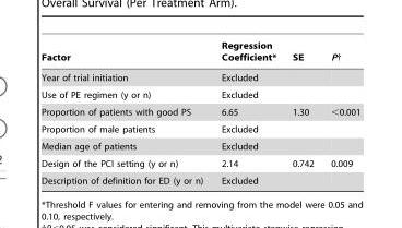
<table><thead><tr><td>Factor</td><td>Regression Coefficient*</td><td>SE</td><td>P†</td></tr></thead><tbody><tr><td>Year of trial initiation</td><td>Excluded</td><td></td><td></td></tr><tr><td>Use of PE regimen (y or n)</td><td>Excluded</td><td></td><td></td></tr><tr><td>Proportion of patients with good PS</td><td>6.65</td><td>1.30</td><td>&lt;0.001</td></tr><tr><td>Proportion of male patients</td><td>Excluded</td><td></td><td></td></tr><tr><td>Median age of patients</td><td>Excluded</td><td></td><td></td></tr><tr><td>Design of the PCI setting (y or n)</td><td>2.14</td><td>0.742</td><td>0.009</td></tr><tr><td>Description of definition for ED (y or n)</td><td>Excluded</td><td></td><td></td></tr></tbody></table>